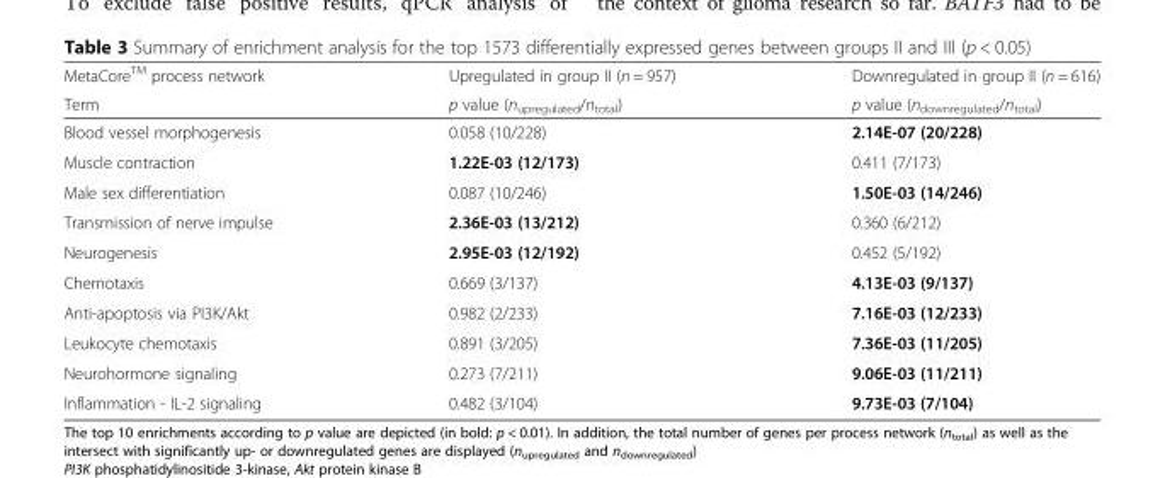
<table><thead><tr><td rowspan="2">MetaCore<sup>TM</sup> process network Term</td><td rowspan="2">Upregulated in group II (n = 957) p value (n<sub>upregulated</sub>/n<sub>total</sub>)</td><td rowspan="2">Downregulated in group II (n = 616) p value (n<sub>downregulated</sub>/n<sub>total</sub>)</td></tr><tr></tr></thead><tbody><tr><td>Blood vessel morphogenesis</td><td>0.058 (10/228)</td><td>2.14E-07 (20/228)</td></tr><tr><td>Muscle contraction</td><td>1.22E-03 (12/173)</td><td>0.411 (7/173)</td></tr><tr><td>Male sex differentiation</td><td>0.087 (10/246)</td><td>1.50E-03 (14/246)</td></tr><tr><td>Transmission of nerve impulse</td><td>2.36E-03 (13/212)</td><td>0.360 (6/212)</td></tr><tr><td>Neurogenesis</td><td>2.95E-03 (12/192)</td><td>0.452 (5/192)</td></tr><tr><td>Chemotaxis</td><td>0.669 (3/137)</td><td>4.13E-03 (9/137)</td></tr><tr><td>Anti-apoptosis via PI3K/Akt</td><td>0.982 (2/233)</td><td>7.16E-03 (12/233)</td></tr><tr><td>Leukocyte chemotaxis</td><td>0.891 (3/205)</td><td>7.36E-03 (11/205)</td></tr><tr><td>Neurohormone signaling</td><td>0.273 (7/211)</td><td>9.06E-03 (11/211)</td></tr><tr><td>Inflammation - IL-2 signaling</td><td>0.482 (3/104)</td><td>9.73E-03 (7/104)</td></tr></tbody></table>